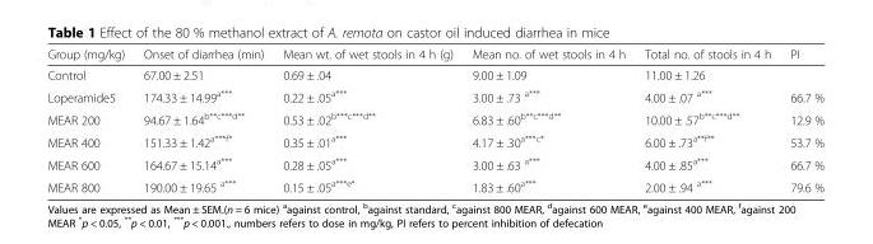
<table><thead><tr><td>Group (mg/kg)</td><td>Onset of diarrhea (min)</td><td>Mean wt. of wet stools in 4 h (g)</td><td>Mean no. of wet stools in 4 h</td><td>Total no. of stools in 4 h</td><td>PI</td></tr></thead><tbody><tr><td>Control</td><td>67.00 ± 2.51</td><td>0.69 ± .04</td><td>9.00 ± 1.09</td><td>11.00 ± 1.26</td><td></td></tr><tr><td>Loperamide5</td><td>174.33 ± 14.99<sup>a***</sup></td><td>0.22 ± .05<sup>a***</sup></td><td>3.00 ± .73 <sup>a***</sup></td><td>4.00 ± .07 <sup>a***</sup></td><td>66.7 %</td></tr><tr><td>MEAR 200</td><td>94.67 ± 1.64<sup>b**c***d**</sup></td><td>0.53 ± .02<sup>b***c***d**</sup></td><td>6.83 ± .60<sup>b**c***d**</sup></td><td>10.00 ± .57<sup>b**c***d**</sup></td><td>12.9 %</td></tr><tr><td>MEAR 400</td><td>151.33 ± 1.42<sup>a***f*</sup></td><td>0.35 ± .01<sup>a***</sup></td><td>4.17 ± .30<sup>a***c*</sup></td><td>6.00 ± .73<sup>a**f**</sup></td><td>53.7 %</td></tr><tr><td>MEAR 600</td><td>164.67 ± 15.14<sup>a***</sup></td><td>0.28 ± .05<sup>a***</sup></td><td>3.00 ± .63 <sup>a***</sup></td><td>4.00 ± .85<sup>a***</sup></td><td>66.7 %</td></tr><tr><td>MEAR 800</td><td>190.00 ± 19.65 <sup>a***</sup></td><td>0.15 ± .05<sup>a***e*</sup></td><td>1.83 ± .60<sup>a***</sup></td><td>2.00 ± .94 <sup>a***</sup></td><td>79.6 %</td></tr></tbody></table>